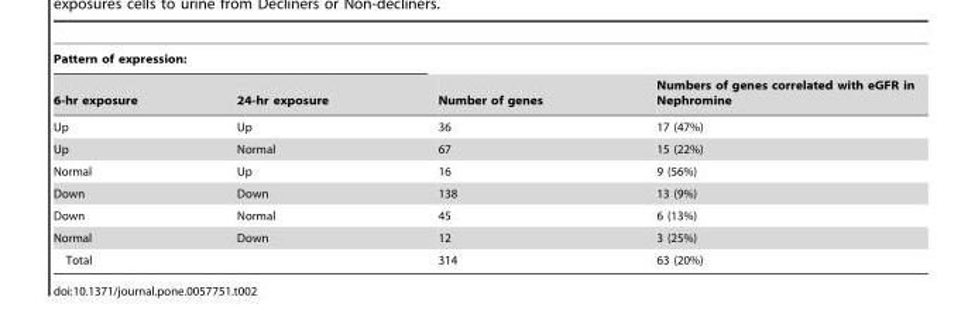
<table><thead><tr><td colspan="2">Pattern of expression:</td><td rowspan="2">Number of genes</td><td rowspan="2">Numbers of genes correlated with eGFR in Nephromine</td></tr><tr><td>6-hr exposure</td><td>24-hr exposure</td></tr></thead><tbody><tr><td>Up</td><td>Up</td><td>36</td><td>17 (47%)</td></tr><tr><td>Up</td><td>Normal</td><td>67</td><td>15 (22%)</td></tr><tr><td>Normal</td><td>Up</td><td>16</td><td>9 (56%)</td></tr><tr><td>Down</td><td>Down</td><td>138</td><td>13 (9%)</td></tr><tr><td>Down</td><td>Normal</td><td>45</td><td>6 (13%)</td></tr><tr><td>Normal</td><td>Down</td><td>12</td><td>3 (25%)</td></tr><tr><td colspan="2">Total</td><td>314</td><td>63 (20%)</td></tr></tbody></table>